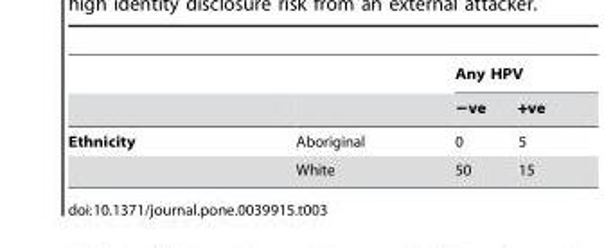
<table><thead><tr><td rowspan="2"></td><td rowspan="2"></td><td colspan="2">Any HPV</td></tr><tr><td>−ve</td><td>+ve</td></tr></thead><tbody><tr><td rowspan="2">Ethnicity</td><td>Aboriginal</td><td>0</td><td>5</td></tr><tr><td>White</td><td>50</td><td>15</td></tr></tbody></table>